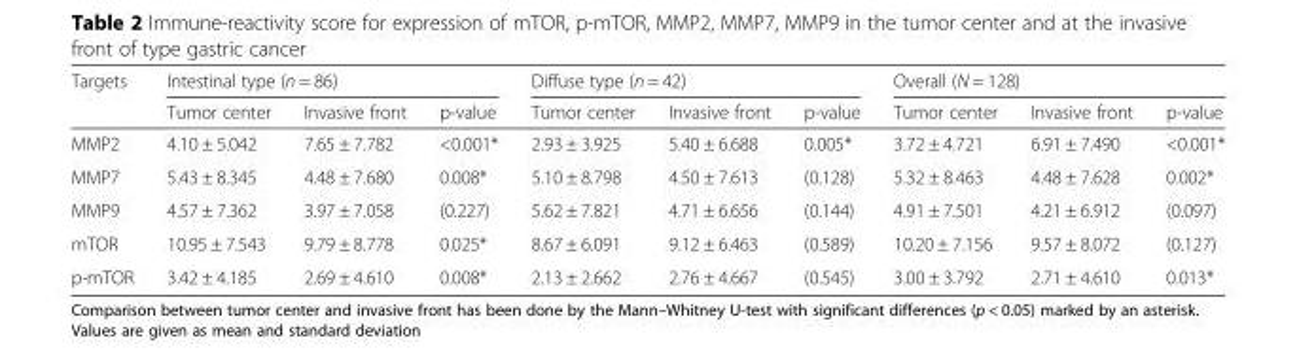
<table><thead><tr><td rowspan="2">Targets</td><td colspan="3">Intestinal type (n = 86)</td><td colspan="3">Diffuse type (n = 42)</td><td colspan="3">Overall (N = 128)</td></tr><tr><td>Tumor center</td><td>Invasive front</td><td>p-value</td><td>Tumor center</td><td>Invasive front</td><td>p-value</td><td>Tumor center</td><td>Invasive front</td><td>p-value</td></tr></thead><tbody><tr><td>MMP2</td><td>4.10 ± 5.042</td><td>7.65 ± 7.782</td><td>&lt;0.001*</td><td>2.93 ± 3.925</td><td>5.40 ± 6.688</td><td>0.005*</td><td>3.72 ± 4.721</td><td>6.91 ± 7.490</td><td>&lt;0.001*</td></tr><tr><td>MMP7</td><td>5.43 ± 8.345</td><td>4.48 ± 7.680</td><td>0.008*</td><td>5.10 ± 8.798</td><td>4.50 ± 7.613</td><td>(0.128)</td><td>5.32 ± 8.463</td><td>4.48 ± 7.628</td><td>0.002*</td></tr><tr><td>MMP9</td><td>4.57 ± 7.362</td><td>3.97 ± 7.058</td><td>(0.227)</td><td>5.62 ± 7.821</td><td>4.71 ± 6.656</td><td>(0.144)</td><td>4.91 ± 7.501</td><td>4.21 ± 6.912</td><td>(0.097)</td></tr><tr><td>mTOR</td><td>10.95 ± 7.543</td><td>9.79 ± 8.778</td><td>0.025*</td><td>8.67 ± 6.091</td><td>9.12 ± 6.463</td><td>(0.589)</td><td>10.20 ± 7.156</td><td>9.57 ± 8.072</td><td>(0.127)</td></tr><tr><td>p-mTOR</td><td>3.42 ± 4.185</td><td>2.69 ± 4.610</td><td>0.008*</td><td>2.13 ± 2.662</td><td>2.76 ± 4.667</td><td>(0.545)</td><td>3.00 ± 3.792</td><td>2.71 ± 4.610</td><td>0.013*</td></tr></tbody></table>